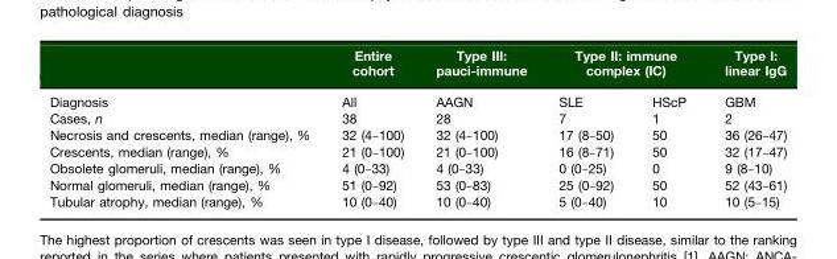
<table><thead><tr><td rowspan="2">Diagnosis</td><td rowspan="2">Entire cohort All</td><td rowspan="2">Type III: pauci-immune AAGN</td><td colspan="2">Type II: immune complex (IC)</td><td rowspan="2">Type I: linear IgG GBM</td></tr><tr><td>SLE</td><td>HScP</td></tr></thead><tbody><tr><td>Cases, n</td><td>38</td><td>28</td><td>7</td><td>1</td><td>2</td></tr><tr><td>Necrosis and crescents, median (range), %</td><td>32 (4–100)</td><td>32 (4–100)</td><td>17 (8–50)</td><td>50</td><td>36 (26–47)</td></tr><tr><td>Crescents, median (range), %</td><td>21 (0–100)</td><td>21 (0–100)</td><td>16 (8–71)</td><td>50</td><td>32 (17–47)</td></tr><tr><td>Obsolete glomeruli, median (range), %</td><td>4 (0–33)</td><td>4 (0–33)</td><td>0 (0–25)</td><td>0</td><td>9 (8–10)</td></tr><tr><td>Normal glomeruli, median (range), %</td><td>51 (0–92)</td><td>53 (0–83)</td><td>25 (0–92)</td><td>50</td><td>52 (43–61)</td></tr><tr><td>Tubular atrophy, median (range), %</td><td>10 (0–40)</td><td>10 (0–40)</td><td>5 (0–40)</td><td>10</td><td>10 (5–15)</td></tr></tbody></table>